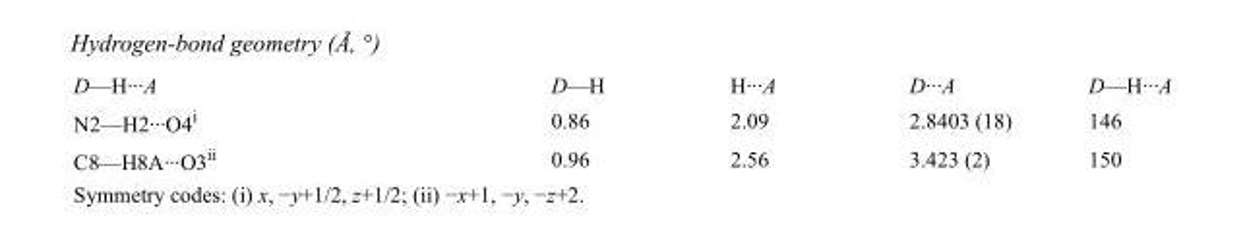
<table><tbody><tr><td>D—H···A</td><td>D—H</td><td>H···A</td><td>D···A</td><td>D—H···A</td></tr><tr><td>N2—H2···O4<sup>i</sup></td><td>0.86</td><td>2.09</td><td>2.8403 (18)</td><td>146</td></tr><tr><td>C8—H8A···O3<sup>ii</sup></td><td>0.96</td><td>2.56</td><td>3.423 (2)</td><td>150</td></tr></tbody></table>